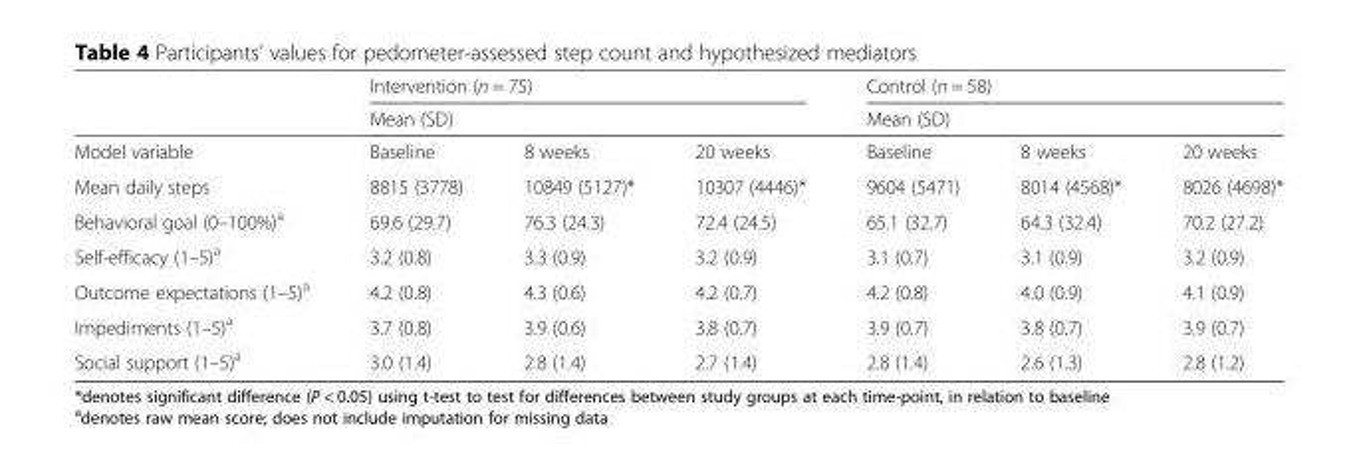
<table><thead><tr><td rowspan="3">Model variable</td><td rowspan="2" colspan="3">Intervention (n = 75) Mean (SD)</td><td rowspan="2" colspan="3">Control (n = 58) Mean (SD)</td></tr><tr></tr><tr><td>Baseline</td><td>8 weeks</td><td>20 weeks</td><td>Baseline</td><td>8 weeks</td><td>20 weeks</td></tr></thead><tbody><tr><td>Mean daily steps</td><td>8815 (3778)</td><td>10849 (5127)*</td><td>10307 (4446)*</td><td>9604 (5471)</td><td>8014 (4568)*</td><td>8026 (4698)*</td></tr><tr><td>Behavioral goal (0–100%)<sup>a</sup></td><td>69.6 (29.7)</td><td>76.3 (24.3)</td><td>72.4 (24.5)</td><td>65.1 (32.7)</td><td>64.3 (32.4)</td><td>70.2 (27.2)</td></tr><tr><td>Self-efficacy (1–5)<sup>a</sup></td><td>3.2 (0.8)</td><td>3.3 (0.9)</td><td>3.2 (0.9)</td><td>3.1 (0.7)</td><td>3.1 (0.9)</td><td>3.2 (0.9)</td></tr><tr><td>Outcome expectations (1–5)<sup>a</sup></td><td>4.2 (0.8)</td><td>4.3 (0.6)</td><td>4.2 (0.7)</td><td>4.2 (0.8)</td><td>4.0 (0.9)</td><td>4.1 (0.9)</td></tr><tr><td>Impediments (1–5)<sup>a</sup></td><td>3.7 (0.8)</td><td>3.9 (0.6)</td><td>3.8 (0.7)</td><td>3.9 (0.7)</td><td>3.8 (0.7)</td><td>3.9 (0.7)</td></tr><tr><td>Social support (1–5)<sup>a</sup></td><td>3.0 (1.4)</td><td>2.8 (1.4)</td><td>2.7 (1.4)</td><td>2.8 (1.4)</td><td>2.6 (1.3)</td><td>2.8 (1.2)</td></tr></tbody></table>